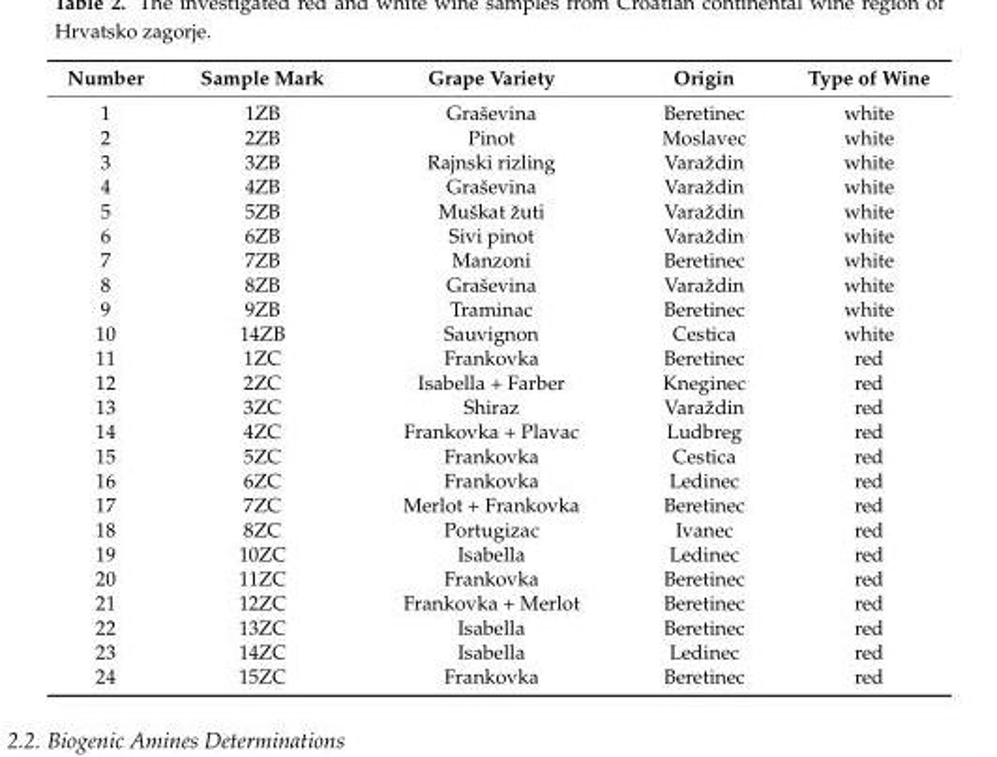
<table><thead><tr><td>Number</td><td>Sample Mark</td><td>Grape Variety</td><td>Origin</td><td>Type of Wine</td></tr></thead><tbody><tr><td>1</td><td>1ZB</td><td>Graševina</td><td>Beretinec</td><td>white</td></tr><tr><td>2</td><td>2ZB</td><td>Pinot</td><td>Moslavec</td><td>white</td></tr><tr><td>3</td><td>3ZB</td><td>Rajnski rizling</td><td>Varaždin</td><td>white</td></tr><tr><td>4</td><td>4ZB</td><td>Graševina</td><td>Varaždin</td><td>white</td></tr><tr><td>5</td><td>5ZB</td><td>Muškat žuti</td><td>Varaždin</td><td>white</td></tr><tr><td>6</td><td>6ZB</td><td>Sivi pinot</td><td>Varaždin</td><td>white</td></tr><tr><td>7</td><td>7ZB</td><td>Manzoni</td><td>Beretinec</td><td>white</td></tr><tr><td>8</td><td>8ZB</td><td>Graševina</td><td>Varaždin</td><td>white</td></tr><tr><td>9</td><td>9ZB</td><td>Traminac</td><td>Beretinec</td><td>white</td></tr><tr><td>10</td><td>14ZB</td><td>Sauvignon</td><td>Cestica</td><td>white</td></tr><tr><td>11</td><td>1ZC</td><td>Frankovka</td><td>Beretinec</td><td>red</td></tr><tr><td>12</td><td>2ZC</td><td>Isabella + Farber</td><td>Kneginec</td><td>red</td></tr><tr><td>13</td><td>3ZC</td><td>Shiraz</td><td>Varaždin</td><td>red</td></tr><tr><td>14</td><td>4ZC</td><td>Frankovka + Plavac</td><td>Ludbreg</td><td>red</td></tr><tr><td>15</td><td>5ZC</td><td>Frankovka</td><td>Cestica</td><td>red</td></tr><tr><td>16</td><td>6ZC</td><td>Frankovka</td><td>Ledinec</td><td>red</td></tr><tr><td>17</td><td>7ZC</td><td>Merlot + Frankovka</td><td>Beretinec</td><td>red</td></tr><tr><td>18</td><td>8ZC</td><td>Portugizac</td><td>Ivanec</td><td>red</td></tr><tr><td>19</td><td>10ZC</td><td>Isabella</td><td>Ledinec</td><td>red</td></tr><tr><td>20</td><td>11ZC</td><td>Frankovka</td><td>Beretinec</td><td>red</td></tr><tr><td>21</td><td>12ZC</td><td>Frankovka + Merlot</td><td>Beretinec</td><td>red</td></tr><tr><td>22</td><td>13ZC</td><td>Isabella</td><td>Beretinec</td><td>red</td></tr><tr><td>23</td><td>14ZC</td><td>Isabella</td><td>Ledinec</td><td>red</td></tr><tr><td>24</td><td>15ZC</td><td>Frankovka</td><td>Beretinec</td><td>red</td></tr></tbody></table>